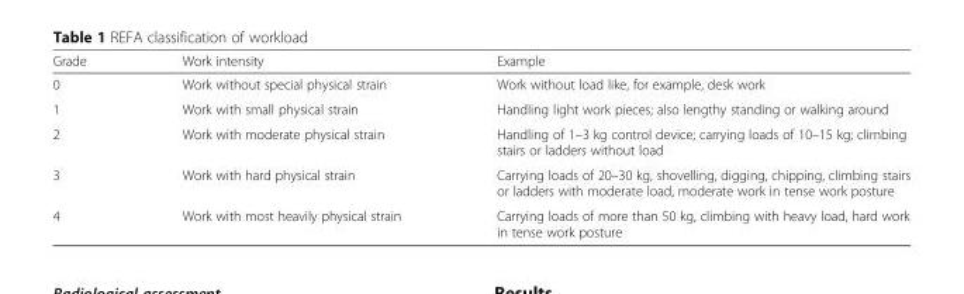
<table><thead><tr><td>Grade</td><td>Work intensity</td><td>Example</td></tr></thead><tbody><tr><td>0</td><td>Work without special physical strain</td><td>Work without load like, for example, desk work</td></tr><tr><td>1</td><td>Work with small physical strain</td><td>Handling light work pieces; also lengthy standing or walking around</td></tr><tr><td>2</td><td>Work with moderate physical strain</td><td>Handling of 1–3 kg control device; carrying loads of 10–15 kg; climbing stairs or ladders without load</td></tr><tr><td>3</td><td>Work with hard physical strain</td><td>Carrying loads of 20–30 kg, shovelling, digging, chipping, climbing stairs or ladders with moderate load, moderate work in tense work posture</td></tr><tr><td>4</td><td>Work with most heavily physical strain</td><td>Carrying loads of more than 50 kg, climbing with heavy load, hard work in tense work posture</td></tr></tbody></table>